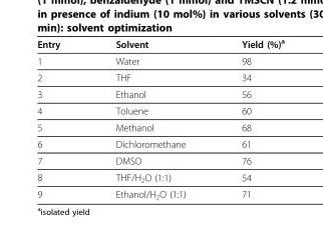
<table><thead><tr><td>Entry</td><td>Solvent</td><td>Yield (%)<sup>a</sup></td></tr></thead><tbody><tr><td>1</td><td>Water</td><td>98</td></tr><tr><td>2</td><td>THF</td><td>34</td></tr><tr><td>3</td><td>Ethanol</td><td>56</td></tr><tr><td>4</td><td>Toluene</td><td>60</td></tr><tr><td>5</td><td>Methanol</td><td>68</td></tr><tr><td>6</td><td>Dichloromethane</td><td>61</td></tr><tr><td>7</td><td>DMSO</td><td>76</td></tr><tr><td>8</td><td>THF/H<sub>2</sub>O (1:1)</td><td>54</td></tr><tr><td>9</td><td>Ethanol/H<sub>2</sub>O (1:1)</td><td>71</td></tr></tbody></table>